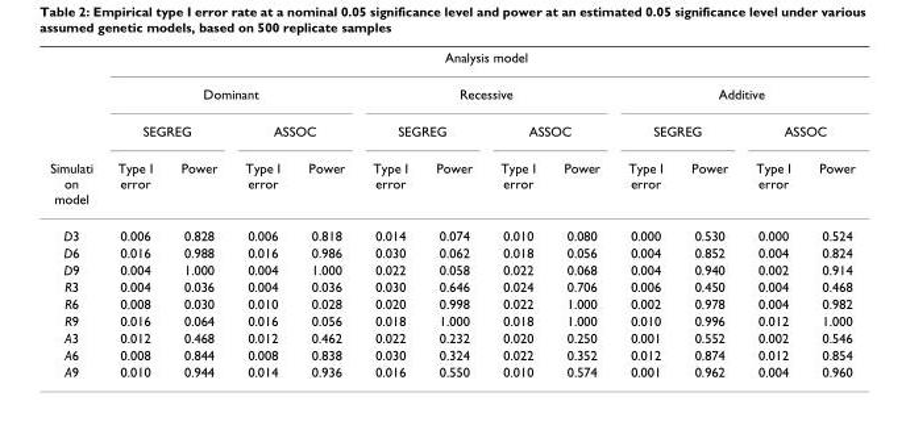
<table><thead><tr><td rowspan="4">Simulati on model</td><td colspan="12">Analysis model</td></tr><tr><td colspan="4">Dominant</td><td colspan="4">Recessive</td><td colspan="4">Additive</td></tr><tr><td colspan="2">SEGREG</td><td colspan="2">ASSOC</td><td colspan="2">SEGREG</td><td colspan="2">ASSOC</td><td colspan="2">SEGREG</td><td colspan="2">ASSOC</td></tr><tr><td>Type I error</td><td>Power</td><td>Type I error</td><td>Power</td><td>Type I error</td><td>Power</td><td>Type I error</td><td>Power</td><td>Type I error</td><td>Power</td><td>Type I error</td><td>Power</td></tr></thead><tbody><tr><td>D3</td><td>0.006</td><td>0.828</td><td>0.006</td><td>0.818</td><td>0.014</td><td>0.074</td><td>0.010</td><td>0.080</td><td>0.000</td><td>0.530</td><td>0.000</td><td>0.524</td></tr><tr><td>D6</td><td>0.016</td><td>0.988</td><td>0.016</td><td>0.986</td><td>0.030</td><td>0.062</td><td>0.018</td><td>0.056</td><td>0.004</td><td>0.852</td><td>0.004</td><td>0.824</td></tr><tr><td>D9</td><td>0.004</td><td>1.000</td><td>0.004</td><td>1.000</td><td>0.022</td><td>0.058</td><td>0.022</td><td>0.068</td><td>0.004</td><td>0.940</td><td>0.002</td><td>0.914</td></tr><tr><td>R3</td><td>0.004</td><td>0.036</td><td>0.004</td><td>0.036</td><td>0.030</td><td>0.646</td><td>0.024</td><td>0.706</td><td>0.006</td><td>0.450</td><td>0.004</td><td>0.468</td></tr><tr><td>R6</td><td>0.008</td><td>0.030</td><td>0.010</td><td>0.028</td><td>0.020</td><td>0.998</td><td>0.022</td><td>1.000</td><td>0.002</td><td>0.978</td><td>0.004</td><td>0.982</td></tr><tr><td>R9</td><td>0.016</td><td>0.064</td><td>0.016</td><td>0.056</td><td>0.018</td><td>1.000</td><td>0.018</td><td>1.000</td><td>0.010</td><td>0.996</td><td>0.012</td><td>1.000</td></tr><tr><td>A3</td><td>0.012</td><td>0.468</td><td>0.012</td><td>0.462</td><td>0.022</td><td>0.232</td><td>0.020</td><td>0.250</td><td>0.001</td><td>0.552</td><td>0.002</td><td>0.546</td></tr><tr><td>A6</td><td>0.008</td><td>0.844</td><td>0.008</td><td>0.838</td><td>0.030</td><td>0.324</td><td>0.022</td><td>0.352</td><td>0.012</td><td>0.874</td><td>0.012</td><td>0.854</td></tr><tr><td>A9</td><td>0.010</td><td>0.944</td><td>0.014</td><td>0.936</td><td>0.016</td><td>0.550</td><td>0.010</td><td>0.574</td><td>0.001</td><td>0.962</td><td>0.004</td><td>0.960</td></tr></tbody></table>